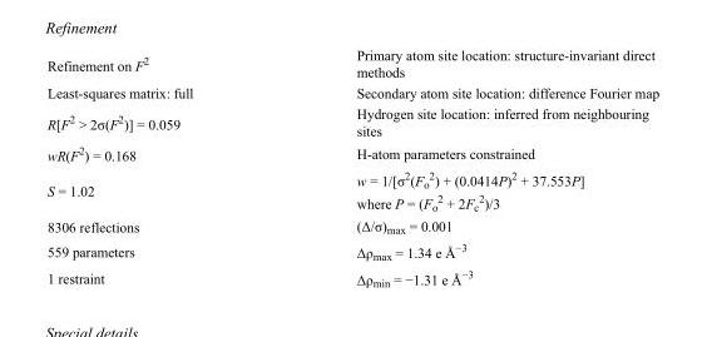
<table><tbody><tr><td>Refinement on F<sup>2</sup></td><td>Primary atom site location: structure-invariant direct methods</td></tr><tr><td>Least-squares matrix: full</td><td>Secondary atom site location: difference Fourier map</td></tr><tr><td>R[F<sup>2</sup> &gt; 2σ(F<sup>2</sup>)] = 0.059</td><td>Hydrogen site location: inferred from neighbouring sites</td></tr><tr><td>wR(F<sup>2</sup>) = 0.168</td><td>H-atom parameters constrained</td></tr><tr><td>S = 1.02</td><td>w = 1/[σ<sup>2</sup>(F<sub>o</sub> <sup>2</sup>) + (0.0414P)<sup>2</sup> + 37.553P] where P = (F<sub>o</sub> <sup>2</sup> + 2F<sub>c</sub> <sup>2</sup>)/3</td></tr><tr><td>8306 reflections</td><td>(Δ/σ)<sub>max</sub> = 0.001</td></tr><tr><td>559 parameters</td><td>Δρ<sub>max</sub> = 1.34 e Å<sup>−3</sup></td></tr><tr><td>1 restraint</td><td>Δρ<sub>min</sub> = −1.31 e Å<sup>−3</sup></td></tr></tbody></table>